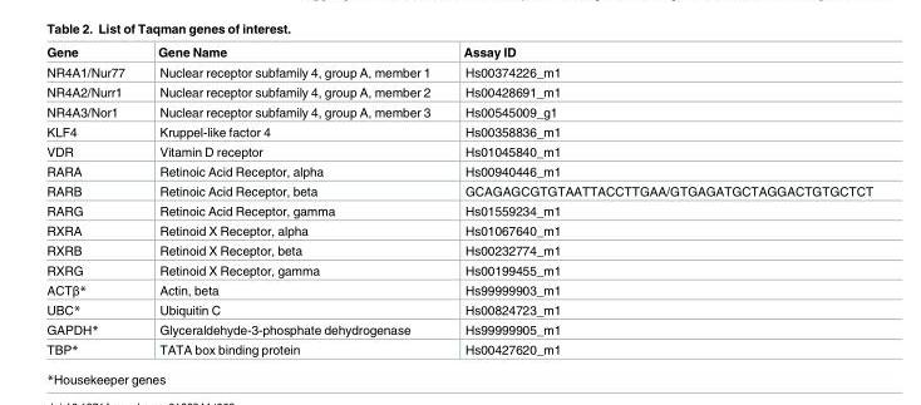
<table><thead><tr><td>Gene</td><td>Gene Name</td><td>Assay ID</td></tr></thead><tbody><tr><td>NR4A1/Nur77</td><td>Nuclear receptor subfamily 4, group A, member 1</td><td>Hs00374226_m1</td></tr><tr><td>NR4A2/Nurr1</td><td>Nuclear receptor subfamily 4, group A, member 2</td><td>Hs00428691_m1</td></tr><tr><td>NR4A3/Nor1</td><td>Nuclear receptor subfamily 4, group A, member 3</td><td>Hs00545009_g1</td></tr><tr><td>KLF4</td><td>Kruppel-like factor 4</td><td>Hs00358836_m1</td></tr><tr><td>VDR</td><td>Vitamin D receptor</td><td>Hs01045840_m1</td></tr><tr><td>RARA</td><td>Retinoic Acid Receptor, alpha</td><td>Hs00940446_m1</td></tr><tr><td>RARB</td><td>Retinoic Acid Receptor, beta</td><td>GCAGAGCGTGTAATTACCTTGAA/GTGAGATGCTAGGACTGTGCTCT</td></tr><tr><td>RARG</td><td>Retinoic Acid Receptor, gamma</td><td>Hs01559234_m1</td></tr><tr><td>RXRA</td><td>Retinoid X Receptor, alpha</td><td>Hs01067640_m1</td></tr><tr><td>RXRB</td><td>Retinoid X Receptor, beta</td><td>Hs00232774_m1</td></tr><tr><td>RXRG</td><td>Retinoid X Receptor, gamma</td><td>Hs00199455_m1</td></tr><tr><td>ACTβ*</td><td>Actin, beta</td><td>Hs99999903_m1</td></tr><tr><td>UBC*</td><td>Ubiquitin C</td><td>Hs00824723_m1</td></tr><tr><td>GAPDH*</td><td>Glyceraldehyde-3-phosphate dehydrogenase</td><td>Hs99999905_m1</td></tr><tr><td>TBP*</td><td>TATA box binding protein</td><td>Hs00427620_m1</td></tr></tbody></table>